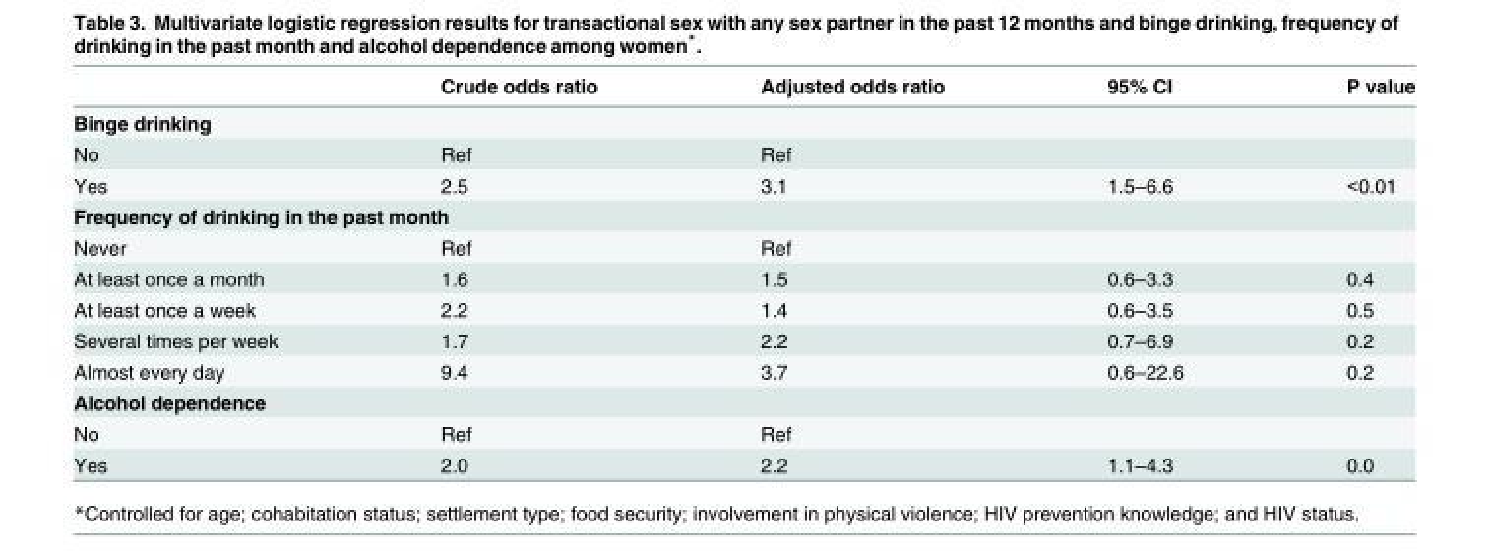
<table><thead><tr><td></td><td>Crude odds ratio</td><td>Adjusted odds ratio</td><td>95% CI</td><td>P value</td></tr></thead><tbody><tr><td colspan="5">Binge drinking</td></tr><tr><td>No</td><td>Ref</td><td>Ref</td><td></td><td></td></tr><tr><td>Yes</td><td>2.5</td><td>3.1</td><td>1.5–6.6</td><td>&lt;0.01</td></tr><tr><td colspan="5">Frequency of drinking in the past month</td></tr><tr><td>Never</td><td>Ref</td><td>Ref</td><td></td><td></td></tr><tr><td>At least once a month</td><td>1.6</td><td>1.5</td><td>0.6–3.3</td><td>0.4</td></tr><tr><td>At least once a week</td><td>2.2</td><td>1.4</td><td>0.6–3.5</td><td>0.5</td></tr><tr><td>Several times per week</td><td>1.7</td><td>2.2</td><td>0.7–6.9</td><td>0.2</td></tr><tr><td>Almost every day</td><td>9.4</td><td>3.7</td><td>0.6–22.6</td><td>0.2</td></tr><tr><td colspan="5">Alcohol dependence</td></tr><tr><td>No</td><td>Ref</td><td>Ref</td><td></td><td></td></tr><tr><td>Yes</td><td>2.0</td><td>2.2</td><td>1.1–4.3</td><td>0.0</td></tr></tbody></table>